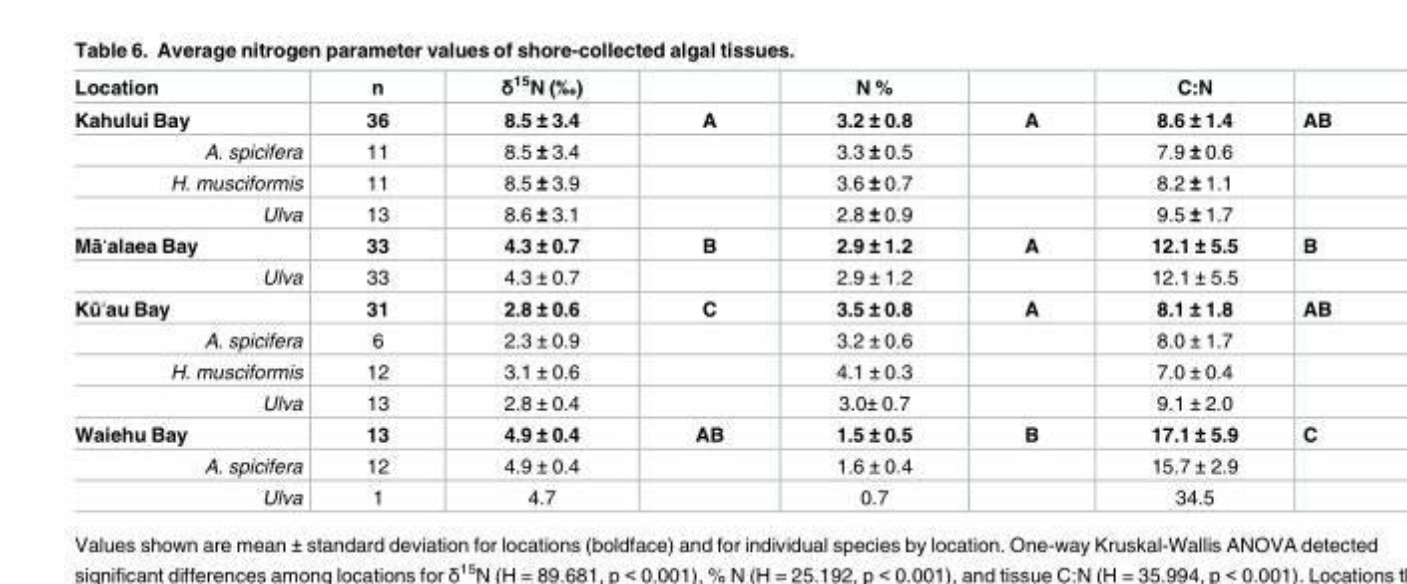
<table><thead><tr><td>Location</td><td>n</td><td>δ<sup>15</sup>N (‰)</td><td></td><td>N %</td><td></td><td>C:N</td><td></td></tr></thead><tbody><tr><td>Kahului Bay</td><td>36</td><td>8.5 ± 3.4</td><td>A</td><td>3.2 ± 0.8</td><td>A</td><td>8.6 ± 1.4</td><td>AB</td></tr><tr><td>A. spicifera</td><td>11</td><td>8.5 ± 3.4</td><td></td><td>3.3 ± 0.5</td><td></td><td>7.9 ± 0.6</td><td></td></tr><tr><td>H. musciformis</td><td>11</td><td>8.5 ± 3.9</td><td></td><td>3.6 ± 0.7</td><td></td><td>8.2 ± 1.1</td><td></td></tr><tr><td>Ulva</td><td>13</td><td>8.6 ± 3.1</td><td></td><td>2.8 ± 0.9</td><td></td><td>9.5 ± 1.7</td><td></td></tr><tr><td>Māʻalaea Bay</td><td>33</td><td>4.3 ± 0.7</td><td>B</td><td>2.9 ± 1.2</td><td>A</td><td>12.1 ± 5.5</td><td>B</td></tr><tr><td>Ulva</td><td>33</td><td>4.3 ± 0.7</td><td></td><td>2.9 ± 1.2</td><td></td><td>12.1 ± 5.5</td><td></td></tr><tr><td>Kūʻau Bay</td><td>31</td><td>2.8 ± 0.6</td><td>C</td><td>3.5 ± 0.8</td><td>A</td><td>8.1 ± 1.8</td><td>AB</td></tr><tr><td>A. spicifera</td><td>6</td><td>2.3 ± 0.9</td><td></td><td>3.2 ± 0.6</td><td></td><td>8.0 ± 1.7</td><td></td></tr><tr><td>H. musciformis</td><td>12</td><td>3.1 ± 0.6</td><td></td><td>4.1 ± 0.3</td><td></td><td>7.0 ± 0.4</td><td></td></tr><tr><td>Ulva</td><td>13</td><td>2.8 ± 0.4</td><td></td><td>3.0± 0.7</td><td></td><td>9.1 ± 2.0</td><td></td></tr><tr><td>Waiehu Bay</td><td>13</td><td>4.9 ± 0.4</td><td>AB</td><td>1.5 ± 0.5</td><td>B</td><td>17.1 ± 5.9</td><td>C</td></tr><tr><td>A. spicifera</td><td>12</td><td>4.9 ± 0.4</td><td></td><td>1.6 ± 0.4</td><td></td><td>15.7 ± 2.9</td><td></td></tr><tr><td>Ulva</td><td>1</td><td>4.7</td><td></td><td>0.7</td><td></td><td>34.5</td><td></td></tr></tbody></table>